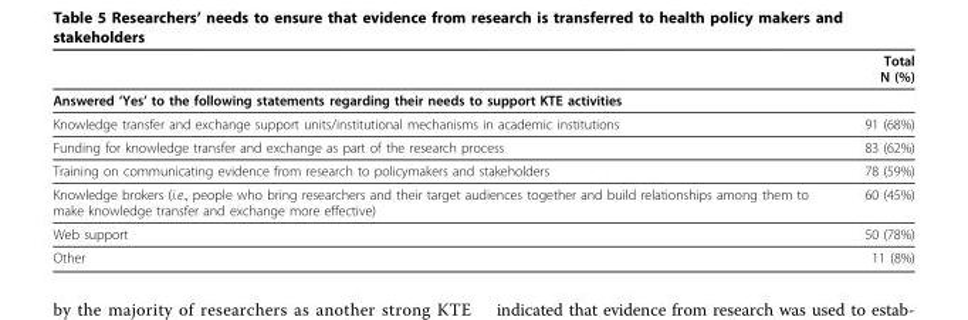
<table><thead><tr><td></td><td>Total N (%)</td></tr></thead><tbody><tr><td colspan="2">Answered ‘Yes’ to the following statements regarding their needs to support KTE activities</td></tr><tr><td>Knowledge transfer and exchange support units/institutional mechanisms in academic institutions</td><td>91 (68%)</td></tr><tr><td>Funding for knowledge transfer and exchange as part of the research process</td><td>83 (62%)</td></tr><tr><td>Training on communicating evidence from research to policymakers and stakeholders</td><td>78 (59%)</td></tr><tr><td>Knowledge brokers (i.e., people who bring researchers and their target audiences together and build relationships among them to make knowledge transfer and exchange more effective)</td><td>60 (45%)</td></tr><tr><td>Web support</td><td>50 (78%)</td></tr><tr><td>Other</td><td>11 (8%)</td></tr></tbody></table>